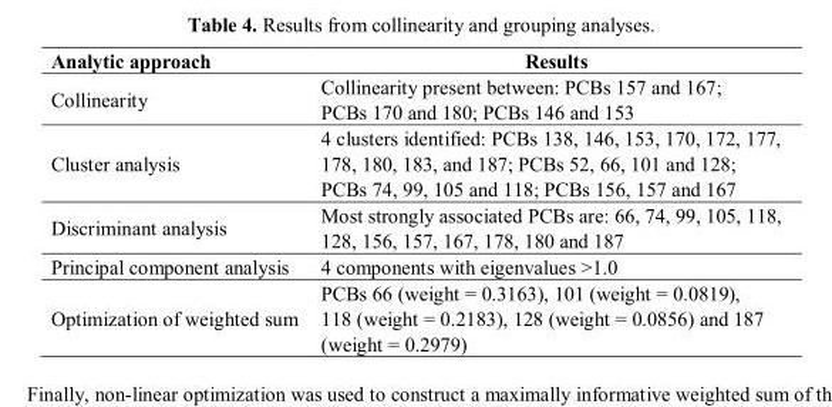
<table><thead><tr><td>Analytic approach</td><td>Results</td></tr></thead><tbody><tr><td>Collinearity</td><td>Collinearity present between: PCBs 157 and 167; PCBs 170 and 180; PCBs 146 and 153</td></tr><tr><td>Cluster analysis</td><td>4 clusters identified: PCBs 138, 146, 153, 170, 172, 177, 178, 180, 183, and 187; PCBs 52, 66, 101 and 128; PCBs 74, 99, 105 and 118; PCBs 156, 157 and 167</td></tr><tr><td>Discriminant analysis</td><td>Most strongly associated PCBs are: 66, 74, 99, 105, 118, 128, 156, 157, 167, 178, 180 and 187</td></tr><tr><td>Principal component analysis</td><td>4 components with eigenvalues &gt;1.0</td></tr><tr><td>Optimization of weighted sum</td><td>PCBs 66 (weight = 0.3163), 101 (weight = 0.0819), 118 (weight = 0.2183), 128 (weight = 0.0856) and 187 (weight = 0.2979)</td></tr></tbody></table>